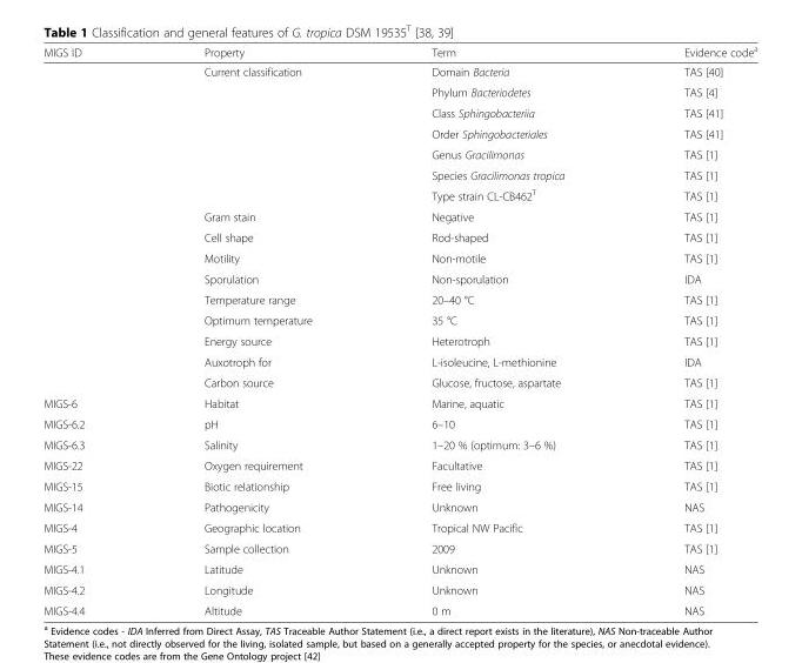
<table><thead><tr><td>MIGS ID</td><td>Property</td><td>Term</td><td>Evidence code<sup>a</sup></td></tr></thead><tbody><tr><td rowspan="7"></td><td rowspan="7">Current classification</td><td>Domain Bacteria</td><td>TAS [40]</td></tr><tr><td>Phylum Bacteriodetes</td><td>TAS [4]</td></tr><tr><td>Class Sphingobacteriia</td><td>TAS [41]</td></tr><tr><td>Order Sphingobacteriales</td><td>TAS [41]</td></tr><tr><td>Genus Gracilimonas</td><td>TAS [1]</td></tr><tr><td>Species Gracilimonas tropica</td><td>TAS [1]</td></tr><tr><td>Type strain CL-CB462<sup>T</sup></td><td>TAS [1]</td></tr><tr><td></td><td>Gram stain</td><td>Negative</td><td>TAS [1]</td></tr><tr><td></td><td>Cell shape</td><td>Rod-shaped</td><td>TAS [1]</td></tr><tr><td></td><td>Motility</td><td>Non-motile</td><td>TAS [1]</td></tr><tr><td></td><td>Sporulation</td><td>Non-sporulation</td><td>IDA</td></tr><tr><td></td><td>Temperature range</td><td>20–40 °C</td><td>TAS [1]</td></tr><tr><td></td><td>Optimum temperature</td><td>35 °C</td><td>TAS [1]</td></tr><tr><td></td><td>Energy source</td><td>Heterotroph</td><td>TAS [1]</td></tr><tr><td></td><td>Auxotroph for</td><td>L-isoleucine, L-methionine</td><td>IDA</td></tr><tr><td></td><td>Carbon source</td><td>Glucose, fructose, aspartate</td><td>TAS [1]</td></tr><tr><td>MIGS-6</td><td>Habitat</td><td>Marine, aquatic</td><td>TAS [1]</td></tr><tr><td>MIGS-6.2</td><td>pH</td><td>6–10</td><td>TAS [1]</td></tr><tr><td>MIGS-6.3</td><td>Salinity</td><td>1–20 % (optimum: 3–6 %)</td><td>TAS [1]</td></tr><tr><td>MIGS-22</td><td>Oxygen requirement</td><td>Facultative</td><td>TAS [1]</td></tr><tr><td>MIGS-15</td><td>Biotic relationship</td><td>Free living</td><td>TAS [1]</td></tr><tr><td>MIGS-14</td><td>Pathogenicity</td><td>Unknown</td><td>NAS</td></tr><tr><td>MIGS-4</td><td>Geographic location</td><td>Tropical NW Pacific</td><td>TAS [1]</td></tr><tr><td>MIGS-5</td><td>Sample collection</td><td>2009</td><td>TAS [1]</td></tr><tr><td>MIGS-4.1</td><td>Latitude</td><td>Unknown</td><td>NAS</td></tr><tr><td>MIGS-4.2</td><td>Longitude</td><td>Unknown</td><td>NAS</td></tr><tr><td>MIGS-4.4</td><td>Altitude</td><td>0 m</td><td>NAS</td></tr></tbody></table>